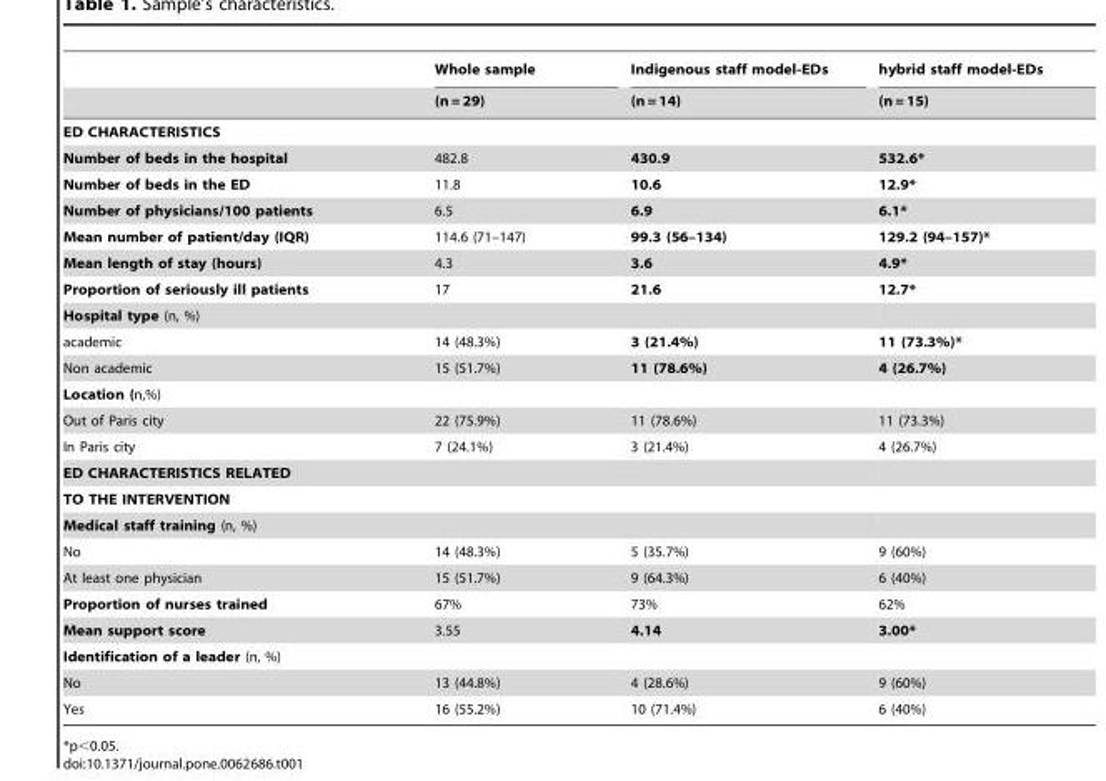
<table><thead><tr><td rowspan="2"></td><td rowspan="2">Whole sample (n = 29)</td><td rowspan="2">Indigenous staff model-EDs (n = 14)</td><td rowspan="2">hybrid staff model-EDs (n = 15)</td></tr><tr></tr></thead><tbody><tr><td colspan="4">ED CHARACTERISTICS</td></tr><tr><td>Number of beds in the hospital</td><td>482.8</td><td>430.9</td><td>532.6*</td></tr><tr><td>Number of beds in the ED</td><td>11.8</td><td>10.6</td><td>12.9*</td></tr><tr><td>Number of physicians/100 patients</td><td>6.5</td><td>6.9</td><td>6.1*</td></tr><tr><td>Mean number of patient/day (IQR)</td><td>114.6 (71–147)</td><td>99.3 (56–134)</td><td>129.2 (94–157)*</td></tr><tr><td>Mean length of stay (hours)</td><td>4.3</td><td>3.6</td><td>4.9*</td></tr><tr><td>Proportion of seriously ill patients</td><td>17</td><td>21.6</td><td>12.7*</td></tr><tr><td colspan="4">Hospital type (n, %)</td></tr><tr><td>academic</td><td>14 (48.3%)</td><td>3 (21.4%)</td><td>11 (73.3%)*</td></tr><tr><td>Non academic</td><td>15 (51.7%)</td><td>11 (78.6%)</td><td>4 (26.7%)</td></tr><tr><td colspan="4">Location (n,%)</td></tr><tr><td>Out of Paris city</td><td>22 (75.9%)</td><td>11 (78.6%)</td><td>11 (73.3%)</td></tr><tr><td>In Paris city</td><td>7 (24.1%)</td><td>3 (21.4%)</td><td>4 (26.7%)</td></tr><tr><td colspan="4">ED CHARACTERISTICS RELATED</td></tr><tr><td colspan="4">TO THE INTERVENTION</td></tr><tr><td colspan="4">Medical staff training (n, %)</td></tr><tr><td>No</td><td>14 (48.3%)</td><td>5 (35.7%)</td><td>9 (60%)</td></tr><tr><td>At least one physician</td><td>15 (51.7%)</td><td>9 (64.3%)</td><td>6 (40%)</td></tr><tr><td>Proportion of nurses trained</td><td>67%</td><td>73%</td><td>62%</td></tr><tr><td>Mean support score</td><td>3.55</td><td>4.14</td><td>3.00*</td></tr><tr><td colspan="4">Identification of a leader (n, %)</td></tr><tr><td>No</td><td>13 (44.8%)</td><td>4 (28.6%)</td><td>9 (60%)</td></tr><tr><td>Yes</td><td>16 (55.2%)</td><td>10 (71.4%)</td><td>6 (40%)</td></tr></tbody></table>